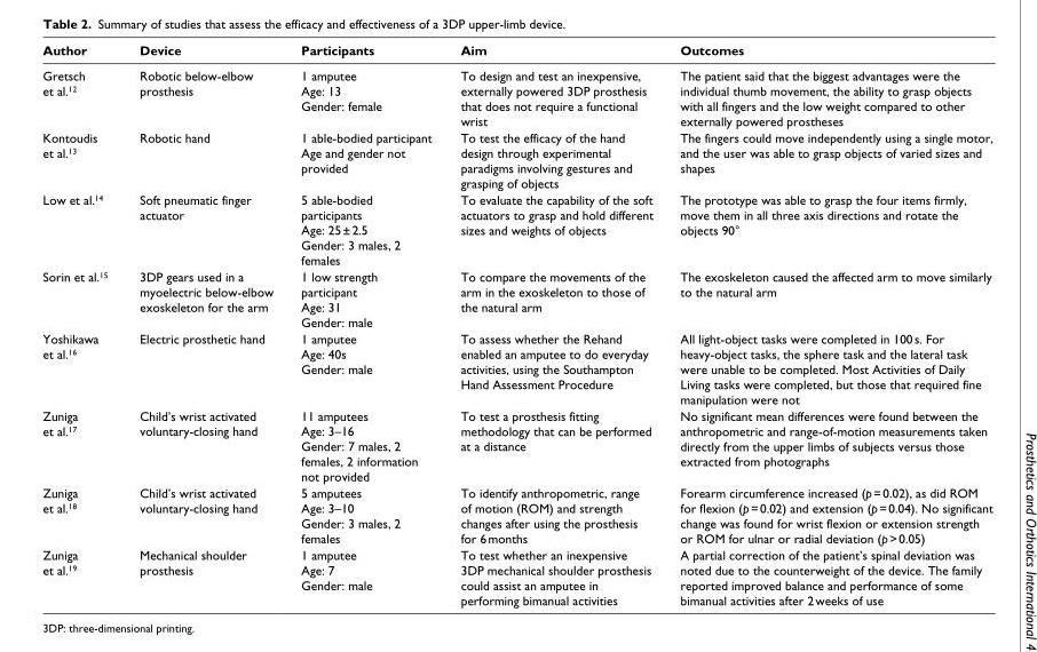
<table><thead><tr><td>Author</td><td>Device</td><td>Participants</td><td>Aim</td><td>Outcomes</td></tr></thead><tbody><tr><td>Gretsch et al.<sup>12</sup></td><td>Robotic below-elbow prosthesis</td><td>1 amputee Age: 13 Gender: female</td><td>To design and test an inexpensive, externally powered 3DP prosthesis that does not require a functional wrist</td><td>The patient said that the biggest advantages were the individual thumb movement, the ability to grasp objects with all fingers and the low weight compared to other externally powered prostheses</td></tr><tr><td>Kontoudis et al.<sup>13</sup></td><td>Robotic hand</td><td>1 able-bodied participant Age and gender not provided</td><td>To test the efficacy of the hand design through experimental paradigms involving gestures and grasping of objects</td><td>The fingers could move independently using a single motor, and the user was able to grasp objects of varied sizes and shapes</td></tr><tr><td>Low et al.<sup>14</sup></td><td>Soft pneumatic finger actuator</td><td>5 able-bodied participants Age: 25 ± 2.5 Gender: 3 males, 2 females</td><td>To evaluate the capability of the soft actuators to grasp and hold different sizes and weights of objects</td><td>The prototype was able to grasp the four items firmly, move them in all three axis directions and rotate the objects 90°</td></tr><tr><td>Sorin et al.<sup>15</sup></td><td>3DP gears used in a myoelectric below-elbow exoskeleton for the arm</td><td>1 low strength participant Age: 31 Gender: male</td><td>To compare the movements of the arm in the exoskeleton to those of the natural arm</td><td>The exoskeleton caused the affected arm to move similarly to the natural arm</td></tr><tr><td>Yoshikawa et al.<sup>16</sup></td><td>Electric prosthetic hand</td><td>1 amputee Age: 40s Gender: male</td><td>To assess whether the Rehand enabled an amputee to do everyday activities, using the Southampton Hand Assessment Procedure</td><td>All light-object tasks were completed in 100 s. For heavy-object tasks, the sphere task and the lateral task were unable to be completed. Most Activities of Daily Living tasks were completed, but those that required fine manipulation were not</td></tr><tr><td>Zuniga et al.<sup>17</sup></td><td>Child’s wrist activated voluntary-closing hand</td><td>11 amputees Age: 3–16 Gender: 7 males, 2 females, 2 information not provided</td><td>To test a prosthesis fitting methodology that can be performed at a distance</td><td>No significant mean differences were found between the anthropometric and range-of-motion measurements taken directly from the upper limbs of subjects versus those extracted from photographs</td></tr><tr><td>Zuniga et al.<sup>18</sup></td><td>Child’s wrist activated voluntary-closing hand</td><td>5 amputees Age: 3–10 Gender: 3 males, 2 females</td><td>To identify anthropometric, range of motion (ROM) and strength changes after using the prosthesis for 6 months</td><td>Forearm circumference increased (p = 0.02), as did ROM for flexion (p = 0.02) and extension (p = 0.04). No significant change was found for wrist flexion or extension strength or ROM for ulnar or radial deviation (p &gt; 0.05)</td></tr><tr><td>Zuniga et al.<sup>19</sup></td><td>Mechanical shoulder prosthesis</td><td>1 amputee Age: 7 Gender: male</td><td>To test whether an inexpensive 3DP mechanical shoulder prosthesis could assist an amputee in performing bimanual activities</td><td>A partial correction of the patient’s spinal deviation was noted due to the counterweight of the device. The family reported improved balance and performance of some bimanual activities after 2 weeks of use</td></tr></tbody></table>